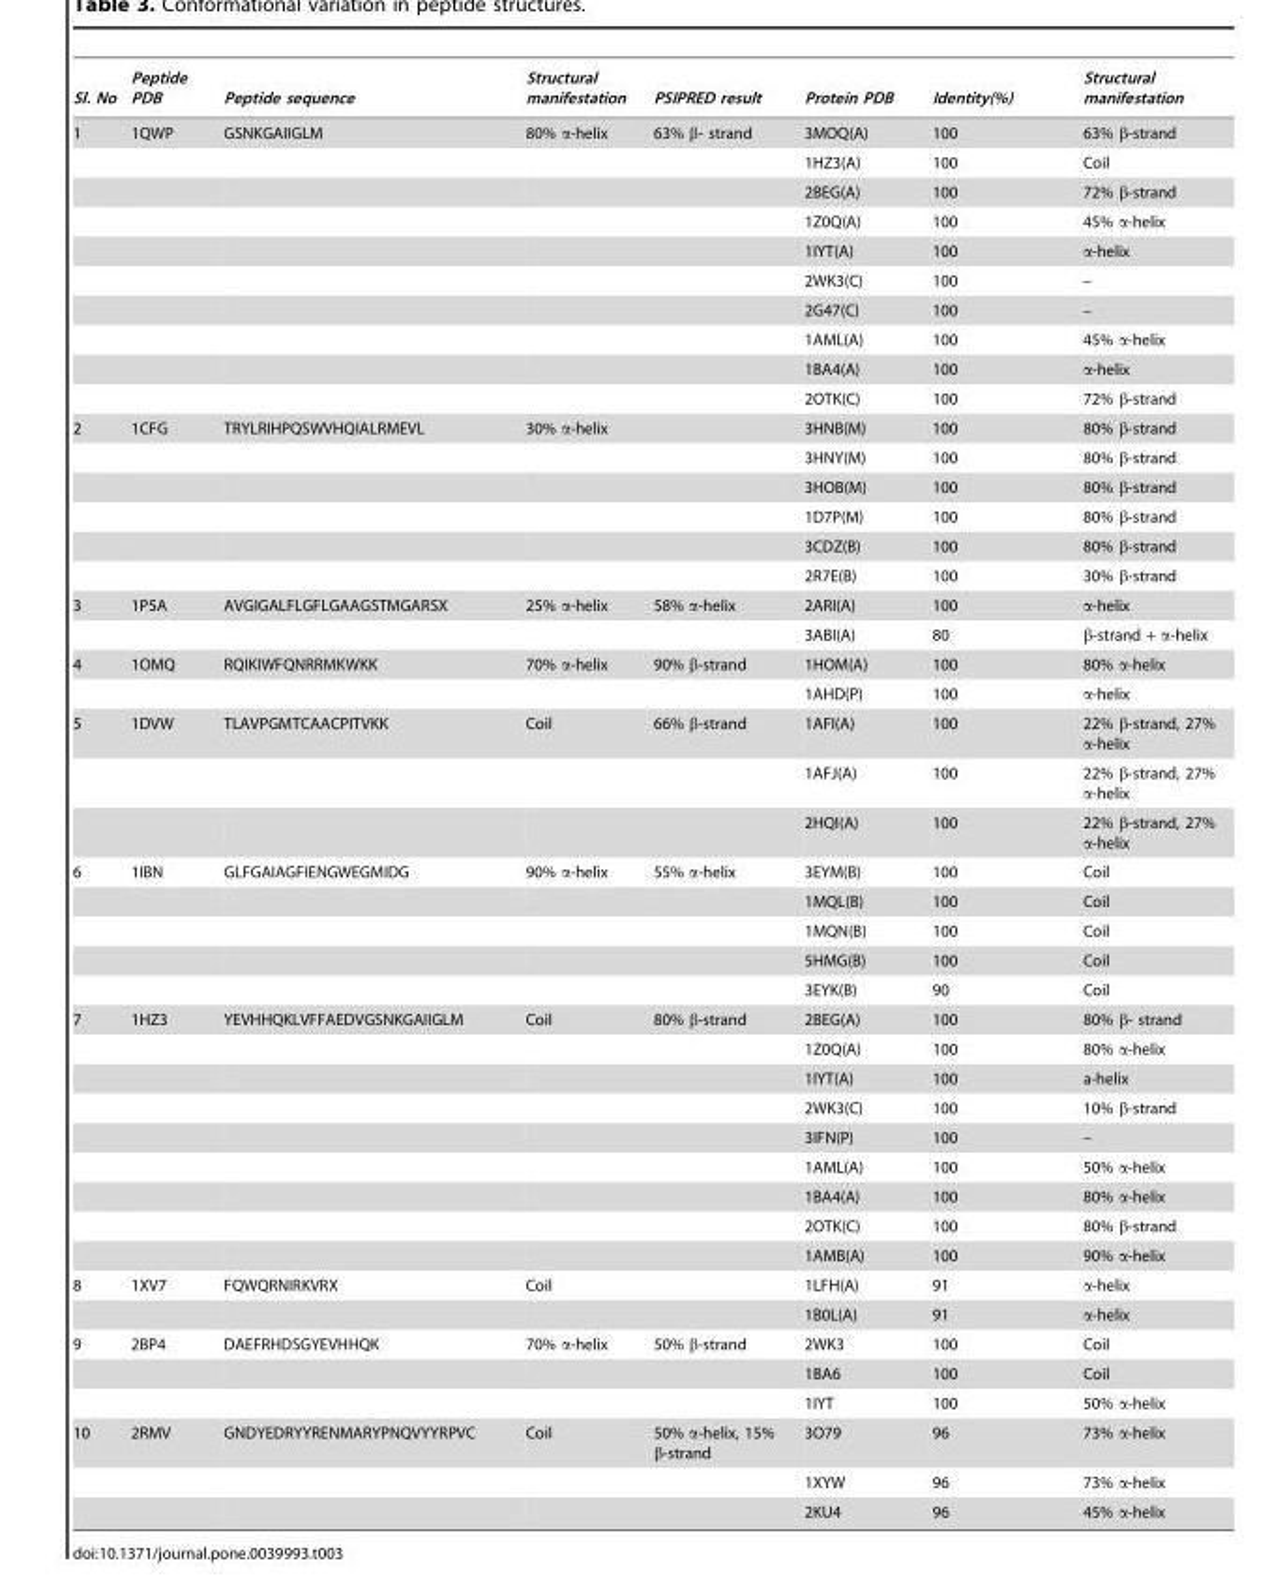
<table><thead><tr><td>Sl. No</td><td>Peptide PDB</td><td>Peptide sequence</td><td>Structural manifestation</td><td>PSIPRED result</td><td>Protein PDB</td><td>Identity(%)</td><td>Structural manifestation</td></tr></thead><tbody><tr><td rowspan="10">1</td><td>1QWP</td><td>GSNKGAIIGLM</td><td>80% α-helix</td><td>63% β- strand</td><td>3MOQ(A)</td><td>100</td><td>63% β-strand</td></tr><tr><td></td><td></td><td></td><td></td><td>1HZ3(A)</td><td>100</td><td>Coil</td></tr><tr><td></td><td></td><td></td><td></td><td>2BEG(A)</td><td>100</td><td>72% β-strand</td></tr><tr><td></td><td></td><td></td><td></td><td>1Z0Q(A)</td><td>100</td><td>45% α-helix</td></tr><tr><td></td><td></td><td></td><td></td><td>1IYT(A)</td><td>100</td><td>α-helix</td></tr><tr><td></td><td></td><td></td><td></td><td>2WK3(C)</td><td>100</td><td>–</td></tr><tr><td></td><td></td><td></td><td></td><td>2G47(C)</td><td>100</td><td>–</td></tr><tr><td></td><td></td><td></td><td></td><td>1AML(A)</td><td>100</td><td>45% α-helix</td></tr><tr><td></td><td></td><td></td><td></td><td>1BA4(A)</td><td>100</td><td>α-helix</td></tr><tr><td></td><td></td><td></td><td></td><td>2OTK(C)</td><td>100</td><td>72% β-strand</td></tr><tr><td rowspan="6">2</td><td>1CFG</td><td>TRYLRIHPQSWVHQIALRMEVL</td><td>30% α-helix</td><td></td><td>3HNB(M)</td><td>100</td><td>80% β-strand</td></tr><tr><td></td><td></td><td></td><td></td><td>3HNY(M)</td><td>100</td><td>80% β-strand</td></tr><tr><td></td><td></td><td></td><td></td><td>3HOB(M)</td><td>100</td><td>80% β-strand</td></tr><tr><td></td><td></td><td></td><td></td><td>1D7P(M)</td><td>100</td><td>80% β-strand</td></tr><tr><td></td><td></td><td></td><td></td><td>3CDZ(B)</td><td>100</td><td>80% β-strand</td></tr><tr><td></td><td></td><td></td><td></td><td>2R7E(B)</td><td>100</td><td>30% β-strand</td></tr><tr><td rowspan="2">3</td><td>1P5A</td><td>AVGIGALFLGFLGAAGSTMGARSX</td><td>25% α-helix</td><td>58% α-helix</td><td>2ARI(A)</td><td>100</td><td>α-helix</td></tr><tr><td></td><td></td><td></td><td></td><td>3ABI(A)</td><td>80</td><td>β-strand + α-helix</td></tr><tr><td rowspan="2">4</td><td>1OMQ</td><td>RQIKIWFQNRRMKWKK</td><td>70% α-helix</td><td>90% β-strand</td><td>1HOM(A)</td><td>100</td><td>80% α-helix</td></tr><tr><td></td><td></td><td></td><td></td><td>1AHD(P)</td><td>100</td><td>α-helix</td></tr><tr><td rowspan="3">5</td><td>1DVW</td><td>TLAVPGMTCAACPITVKK</td><td>Coil</td><td>66% β-strand</td><td>1AFI(A)</td><td>100</td><td>22% β-strand, 27% α-helix</td></tr><tr><td></td><td></td><td></td><td></td><td>1AFJ(A)</td><td>100</td><td>22% β-strand, 27% α-helix</td></tr><tr><td></td><td></td><td></td><td></td><td>2HQI(A)</td><td>100</td><td>22% β-strand, 27% α-helix</td></tr><tr><td rowspan="5">6</td><td>1IBN</td><td>GLFGAIAGFIENGWEGMIDG</td><td>90% α-helix</td><td>55% α-helix</td><td>3EYM(B)</td><td>100</td><td>Coil</td></tr><tr><td></td><td></td><td></td><td></td><td>1MQL(B)</td><td>100</td><td>Coil</td></tr><tr><td></td><td></td><td></td><td></td><td>1MQN(B)</td><td>100</td><td>Coil</td></tr><tr><td></td><td></td><td></td><td></td><td>5HMG(B)</td><td>100</td><td>Coil</td></tr><tr><td></td><td></td><td></td><td></td><td>3EYK(B)</td><td>90</td><td>Coil</td></tr><tr><td rowspan="9">7</td><td>1HZ3</td><td>YEVHHQKLVFFAEDVGSNKGAIIGLM</td><td>Coil</td><td>80% β-strand</td><td>2BEG(A)</td><td>100</td><td>80% β- strand</td></tr><tr><td></td><td></td><td></td><td></td><td>1Z0Q(A)</td><td>100</td><td>80% α-helix</td></tr><tr><td></td><td></td><td></td><td></td><td>1IYT(A)</td><td>100</td><td>a-helix</td></tr><tr><td></td><td></td><td></td><td></td><td>2WK3(C)</td><td>100</td><td>10% β-strand</td></tr><tr><td></td><td></td><td></td><td></td><td>3IFN(P)</td><td>100</td><td>–</td></tr><tr><td></td><td></td><td></td><td></td><td>1AML(A)</td><td>100</td><td>50% α-helix</td></tr><tr><td></td><td></td><td></td><td></td><td>1BA4(A)</td><td>100</td><td>80% α-helix</td></tr><tr><td></td><td></td><td></td><td></td><td>2OTK(C)</td><td>100</td><td>80% β-strand</td></tr><tr><td></td><td></td><td></td><td></td><td>1AMB(A)</td><td>100</td><td>90% α-helix</td></tr><tr><td rowspan="2">8</td><td>1XV7</td><td>FQWQRNIRKVRX</td><td>Coil</td><td></td><td>1LFH(A)</td><td>91</td><td>α-helix</td></tr><tr><td></td><td></td><td></td><td></td><td>1B0L(A)</td><td>91</td><td>α-helix</td></tr><tr><td rowspan="3">9</td><td>2BP4</td><td>DAEFRHDSGYEVHHQK</td><td>70% α-helix</td><td>50% β-strand</td><td>2WK3</td><td>100</td><td>Coil</td></tr><tr><td></td><td></td><td></td><td></td><td>1BA6</td><td>100</td><td>Coil</td></tr><tr><td></td><td></td><td></td><td></td><td>1IYT</td><td>100</td><td>50% α-helix</td></tr><tr><td rowspan="3">10</td><td>2RMV</td><td>GNDYEDRYYRENMARYPNQVYYRPVC</td><td>Coil</td><td>50% α-helix, 15% β-strand</td><td>3O79</td><td>96</td><td>73% α-helix</td></tr><tr><td></td><td></td><td></td><td></td><td>1XYW</td><td>96</td><td>73% α-helix</td></tr><tr><td></td><td></td><td></td><td></td><td>2KU4</td><td>96</td><td>45% α-helix</td></tr></tbody></table>